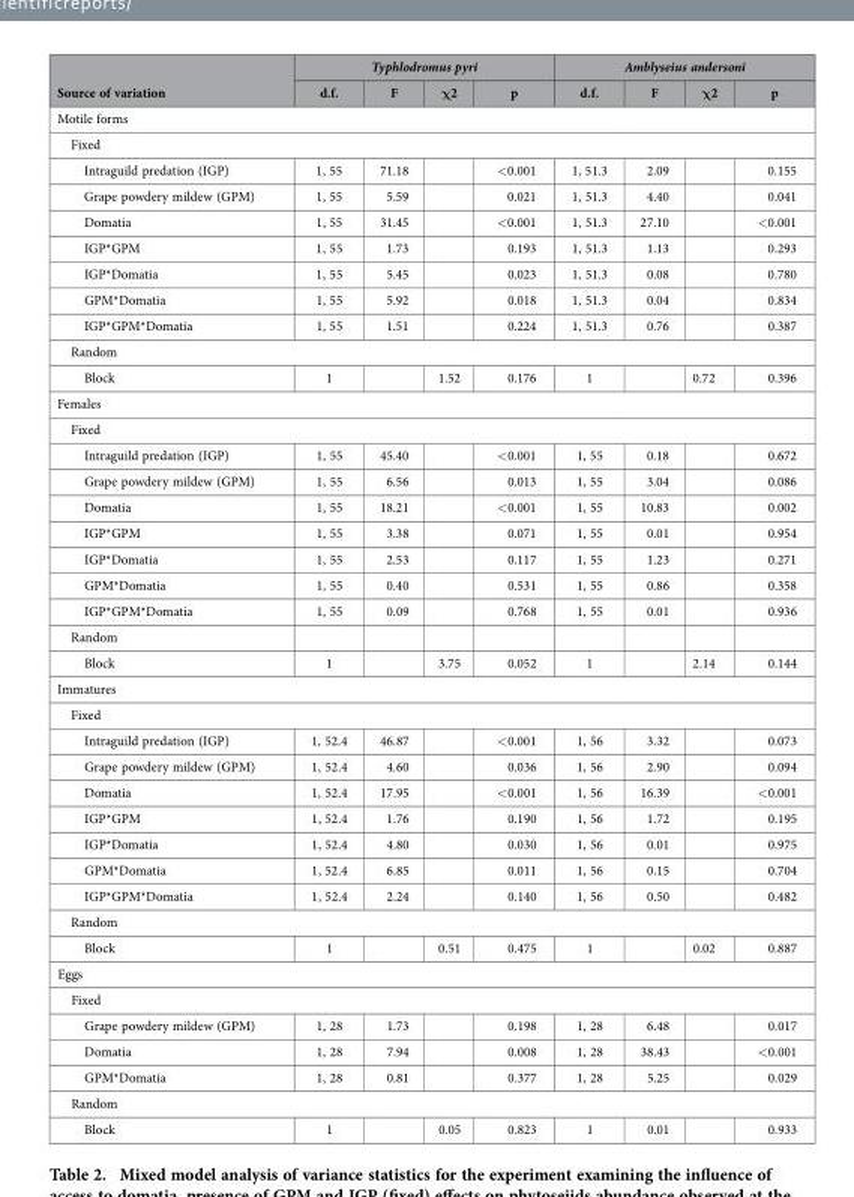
<table><thead><tr><td rowspan="2">Source of variation</td><td colspan="4">Typhlodromus pyri</td><td colspan="4">Amblyseius andersoni</td></tr><tr><td>d.f.</td><td>F</td><td>χ2</td><td>p</td><td>d.f.</td><td>F</td><td>χ2</td><td>p</td></tr></thead><tbody><tr><td colspan="9">Motile forms</td></tr><tr><td colspan="9">Fixed</td></tr><tr><td>Intraguild predation (IGP)</td><td>1, 55</td><td>71.18</td><td></td><td>&lt;0.001</td><td>1, 51.3</td><td>2.09</td><td></td><td>0.155</td></tr><tr><td>Grape powdery mildew (GPM)</td><td>1, 55</td><td>5.59</td><td></td><td>0.021</td><td>1, 51.3</td><td>4.40</td><td></td><td>0.041</td></tr><tr><td>Domatia</td><td>1, 55</td><td>31.45</td><td></td><td>&lt;0.001</td><td>1, 51.3</td><td>27.10</td><td></td><td>&lt;0.001</td></tr><tr><td>IGP*GPM</td><td>1, 55</td><td>1.73</td><td></td><td>0.193</td><td>1, 51.3</td><td>1.13</td><td></td><td>0.293</td></tr><tr><td>IGP*Domatia</td><td>1, 55</td><td>5.45</td><td></td><td>0.023</td><td>1, 51.3</td><td>0.08</td><td></td><td>0.780</td></tr><tr><td>GPM*Domatia</td><td>1, 55</td><td>5.92</td><td></td><td>0.018</td><td>1, 51.3</td><td>0.04</td><td></td><td>0.834</td></tr><tr><td>IGP*GPM*Domatia</td><td>1, 55</td><td>1.51</td><td></td><td>0.224</td><td>1, 51.3</td><td>0.76</td><td></td><td>0.387</td></tr><tr><td colspan="9">Random</td></tr><tr><td>Block</td><td>1</td><td></td><td>1.52</td><td>0.176</td><td>1</td><td></td><td>0.72</td><td>0.396</td></tr><tr><td colspan="9">Females</td></tr><tr><td colspan="9">Fixed</td></tr><tr><td>Intraguild predation (IGP)</td><td>1, 55</td><td>45.40</td><td></td><td>&lt;0.001</td><td>1, 55</td><td>0.18</td><td></td><td>0.672</td></tr><tr><td>Grape powdery mildew (GPM)</td><td>1, 55</td><td>6.56</td><td></td><td>0.013</td><td>1, 55</td><td>3.04</td><td></td><td>0.086</td></tr><tr><td>Domatia</td><td>1, 55</td><td>18.21</td><td></td><td>&lt;0.001</td><td>1, 55</td><td>10.83</td><td></td><td>0.002</td></tr><tr><td>IGP*GPM</td><td>1, 55</td><td>3.38</td><td></td><td>0.071</td><td>1, 55</td><td>0.01</td><td></td><td>0.954</td></tr><tr><td>IGP*Domatia</td><td>1, 55</td><td>2.53</td><td></td><td>0.117</td><td>1, 55</td><td>1.23</td><td></td><td>0.271</td></tr><tr><td>GPM*Domatia</td><td>1, 55</td><td>0.40</td><td></td><td>0.531</td><td>1, 55</td><td>0.86</td><td></td><td>0.358</td></tr><tr><td>IGP*GPM*Domatia</td><td>1, 55</td><td>0.09</td><td></td><td>0.768</td><td>1, 55</td><td>0.01</td><td></td><td>0.936</td></tr><tr><td colspan="9">Random</td></tr><tr><td>Block</td><td>1</td><td></td><td>3.75</td><td>0.052</td><td>1</td><td></td><td>2.14</td><td>0.144</td></tr><tr><td colspan="9">Immatures</td></tr><tr><td colspan="9">Fixed</td></tr><tr><td>Intraguild predation (IGP)</td><td>1, 52.4</td><td>46.87</td><td></td><td>&lt;0.001</td><td>1, 56</td><td>3.32</td><td></td><td>0.073</td></tr><tr><td>Grape powdery mildew (GPM)</td><td>1, 52.4</td><td>4.60</td><td></td><td>0.036</td><td>1, 56</td><td>2.90</td><td></td><td>0.094</td></tr><tr><td>Domatia</td><td>1, 52.4</td><td>17.95</td><td></td><td>&lt;0.001</td><td>1, 56</td><td>16.39</td><td></td><td>&lt;0.001</td></tr><tr><td>IGP*GPM</td><td>1, 52.4</td><td>1.76</td><td></td><td>0.190</td><td>1, 56</td><td>1.72</td><td></td><td>0.195</td></tr><tr><td>IGP*Domatia</td><td>1, 52.4</td><td>4.80</td><td></td><td>0.030</td><td>1, 56</td><td>0.01</td><td></td><td>0.975</td></tr><tr><td>GPM*Domatia</td><td>1, 52.4</td><td>6.85</td><td></td><td>0.011</td><td>1, 56</td><td>0.15</td><td></td><td>0.704</td></tr><tr><td>IGP*GPM*Domatia</td><td>1, 52.4</td><td>2.24</td><td></td><td>0.140</td><td>1, 56</td><td>0.50</td><td></td><td>0.482</td></tr><tr><td colspan="9">Random</td></tr><tr><td>Block</td><td>1</td><td></td><td>0.51</td><td>0.475</td><td>1</td><td></td><td>0.02</td><td>0.887</td></tr><tr><td colspan="9">Eggs</td></tr><tr><td colspan="9">Fixed</td></tr><tr><td>Grape powdery mildew (GPM)</td><td>1, 28</td><td>1.73</td><td></td><td>0.198</td><td>1, 28</td><td>6.48</td><td></td><td>0.017</td></tr><tr><td>Domatia</td><td>1, 28</td><td>7.94</td><td></td><td>0.008</td><td>1, 28</td><td>38.43</td><td></td><td>&lt;0.001</td></tr><tr><td>GPM*Domatia</td><td>1, 28</td><td>0.81</td><td></td><td>0.377</td><td>1, 28</td><td>5.25</td><td></td><td>0.029</td></tr><tr><td colspan="9">Random</td></tr><tr><td>Block</td><td>1</td><td></td><td>0.05</td><td>0.823</td><td>1</td><td>0.01</td><td></td><td>0.933</td></tr></tbody></table>